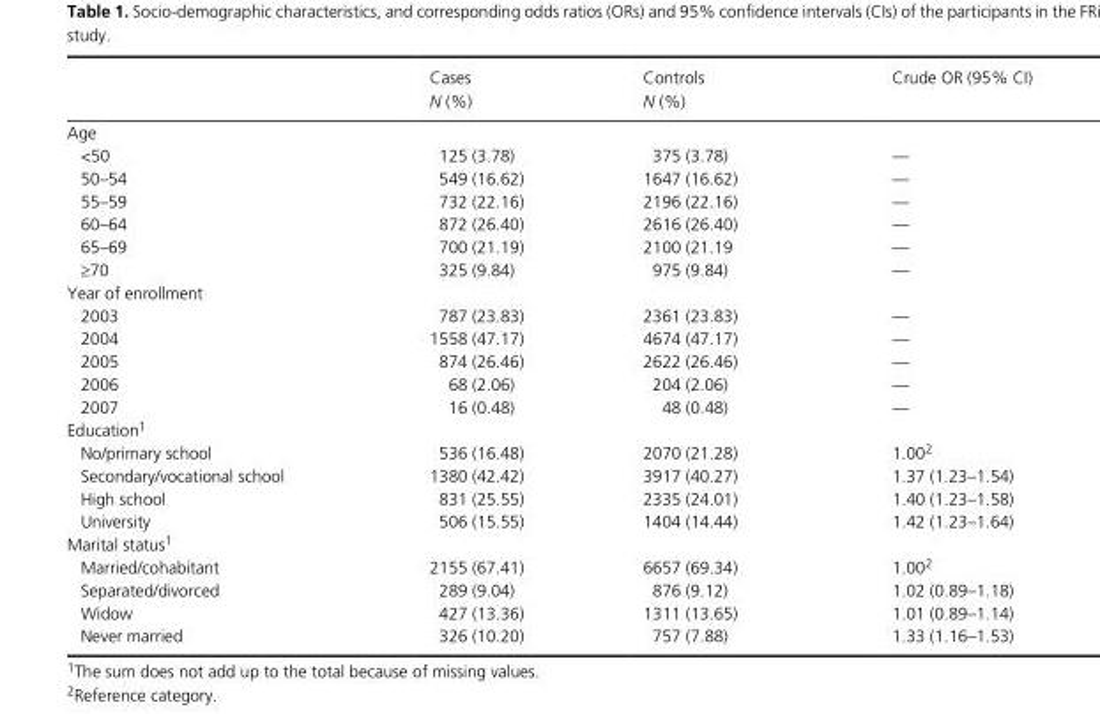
<table><thead><tr><td></td><td>Cases N (%)</td><td>Controls N (%)</td><td>Crude OR (95% CI)</td></tr></thead><tbody><tr><td colspan="4">Age</td></tr><tr><td>&lt;50</td><td>125 (3.78)</td><td>375 (3.78)</td><td>—</td></tr><tr><td>50–54</td><td>549 (16.62)</td><td>1647 (16.62)</td><td>—</td></tr><tr><td>55–59</td><td>732 (22.16)</td><td>2196 (22.16)</td><td>—</td></tr><tr><td>60–64</td><td>872 (26.40)</td><td>2616 (26.40)</td><td>—</td></tr><tr><td>65–69</td><td>700 (21.19)</td><td>2100 (21.19</td><td>—</td></tr><tr><td>≥70</td><td>325 (9.84)</td><td>975 (9.84)</td><td>—</td></tr><tr><td colspan="4">Year of enrollment</td></tr><tr><td>2003</td><td>787 (23.83)</td><td>2361 (23.83)</td><td>—</td></tr><tr><td>2004</td><td>1558 (47.17)</td><td>4674 (47.17)</td><td>—</td></tr><tr><td>2005</td><td>874 (26.46)</td><td>2622 (26.46)</td><td>—</td></tr><tr><td>2006</td><td>68 (2.06)</td><td>204 (2.06)</td><td>—</td></tr><tr><td>2007</td><td>16 (0.48)</td><td>48 (0.48)</td><td>—</td></tr><tr><td colspan="4">Education1</td></tr><tr><td>No/primary school</td><td>536 (16.48)</td><td>2070 (21.28)</td><td>1.002</td></tr><tr><td>Secondary/vocational school</td><td>1380 (42.42)</td><td>3917 (40.27)</td><td>1.37 (1.23–1.54)</td></tr><tr><td>High school</td><td>831 (25.55)</td><td>2335 (24.01)</td><td>1.40 (1.23–1.58)</td></tr><tr><td>University</td><td>506 (15.55)</td><td>1404 (14.44)</td><td>1.42 (1.23–1.64)</td></tr><tr><td colspan="4">Marital status1</td></tr><tr><td>Married/cohabitant</td><td>2155 (67.41)</td><td>6657 (69.34)</td><td>1.002</td></tr><tr><td>Separated/divorced</td><td>289 (9.04)</td><td>876 (9.12)</td><td>1.02 (0.89–1.18)</td></tr><tr><td>Widow</td><td>427 (13.36)</td><td>1311 (13.65)</td><td>1.01 (0.89–1.14)</td></tr><tr><td>Never married</td><td>326 (10.20)</td><td>757 (7.88)</td><td>1.33 (1.16–1.53)</td></tr></tbody></table>